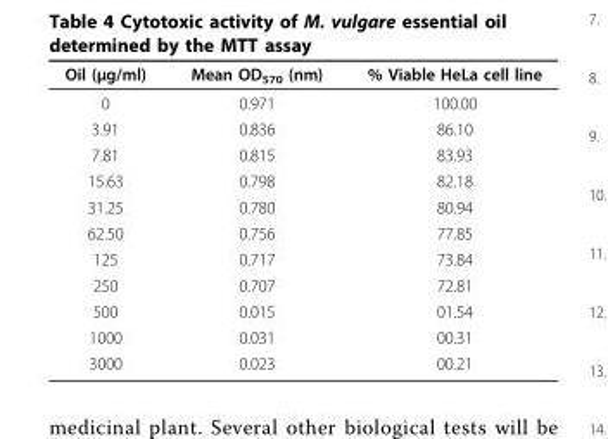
<table><thead><tr><td>Oil (μg/ml)</td><td>Mean OD<sub>570</sub> (nm)</td><td>% Viable HeLa cell line</td></tr></thead><tbody><tr><td>0</td><td>0.971</td><td>100.00</td></tr><tr><td>3.91</td><td>0.836</td><td>86.10</td></tr><tr><td>7.81</td><td>0.815</td><td>83.93</td></tr><tr><td>15.63</td><td>0.798</td><td>82.18</td></tr><tr><td>31.25</td><td>0.780</td><td>80.94</td></tr><tr><td>62.50</td><td>0.756</td><td>77.85</td></tr><tr><td>125</td><td>0.717</td><td>73.84</td></tr><tr><td>250</td><td>0.707</td><td>72.81</td></tr><tr><td>500</td><td>0.015</td><td>01.54</td></tr><tr><td>1000</td><td>0.031</td><td>00.31</td></tr><tr><td>3000</td><td>0.023</td><td>00.21</td></tr></tbody></table>